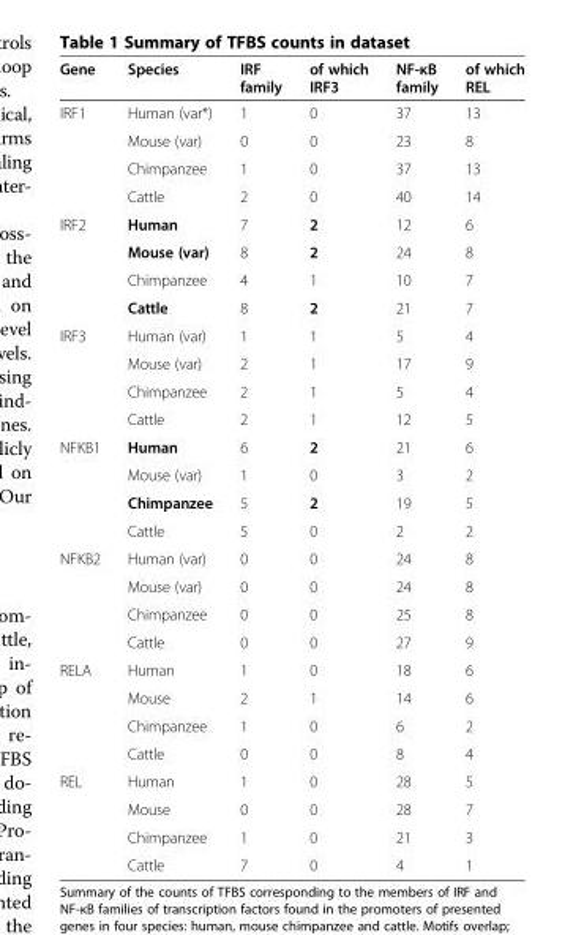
<table><thead><tr><td>Gene</td><td>Species</td><td>IRF family</td><td>of which IRF3</td><td>NF-κB family</td><td>of which REL</td></tr></thead><tbody><tr><td rowspan="4">IRF1</td><td>Human (var*)</td><td>1</td><td>0</td><td>37</td><td>13</td></tr><tr><td>Mouse (var)</td><td>0</td><td>0</td><td>23</td><td>8</td></tr><tr><td>Chimpanzee</td><td>1</td><td>0</td><td>37</td><td>13</td></tr><tr><td>Cattle</td><td>2</td><td>0</td><td>40</td><td>14</td></tr><tr><td rowspan="4">IRF2</td><td>Human</td><td>7</td><td>2</td><td>12</td><td>6</td></tr><tr><td>Mouse (var)</td><td>8</td><td>2</td><td>24</td><td>8</td></tr><tr><td>Chimpanzee</td><td>4</td><td>1</td><td>10</td><td>7</td></tr><tr><td>Cattle</td><td>8</td><td>2</td><td>21</td><td>7</td></tr><tr><td rowspan="4">IRF3</td><td>Human (var)</td><td>1</td><td>1</td><td>5</td><td>4</td></tr><tr><td>Mouse (var)</td><td>2</td><td>1</td><td>17</td><td>9</td></tr><tr><td>Chimpanzee</td><td>2</td><td>1</td><td>5</td><td>4</td></tr><tr><td>Cattle</td><td>2</td><td>1</td><td>12</td><td>5</td></tr><tr><td rowspan="4">NFKB1</td><td>Human</td><td>6</td><td>2</td><td>21</td><td>6</td></tr><tr><td>Mouse (var)</td><td>1</td><td>0</td><td>3</td><td>2</td></tr><tr><td>Chimpanzee</td><td>5</td><td>2</td><td>19</td><td>5</td></tr><tr><td>Cattle</td><td>5</td><td>0</td><td>2</td><td>2</td></tr><tr><td rowspan="4">NFKB2</td><td>Human (var)</td><td>0</td><td>0</td><td>24</td><td>8</td></tr><tr><td>Mouse (var)</td><td>0</td><td>0</td><td>24</td><td>8</td></tr><tr><td>Chimpanzee</td><td>0</td><td>0</td><td>25</td><td>8</td></tr><tr><td>Cattle</td><td>0</td><td>0</td><td>27</td><td>9</td></tr><tr><td rowspan="4">RELA</td><td>Human</td><td>1</td><td>0</td><td>18</td><td>6</td></tr><tr><td>Mouse</td><td>2</td><td>1</td><td>14</td><td>6</td></tr><tr><td>Chimpanzee</td><td>1</td><td>0</td><td>6</td><td>2</td></tr><tr><td>Cattle</td><td>0</td><td>0</td><td>8</td><td>4</td></tr><tr><td rowspan="4">REL</td><td>Human</td><td>1</td><td>0</td><td>28</td><td>5</td></tr><tr><td>Mouse</td><td>0</td><td>0</td><td>28</td><td>7</td></tr><tr><td>Chimpanzee</td><td>1</td><td>0</td><td>21</td><td>3</td></tr><tr><td>Cattle</td><td>7</td><td>0</td><td>4</td><td>1</td></tr></tbody></table>